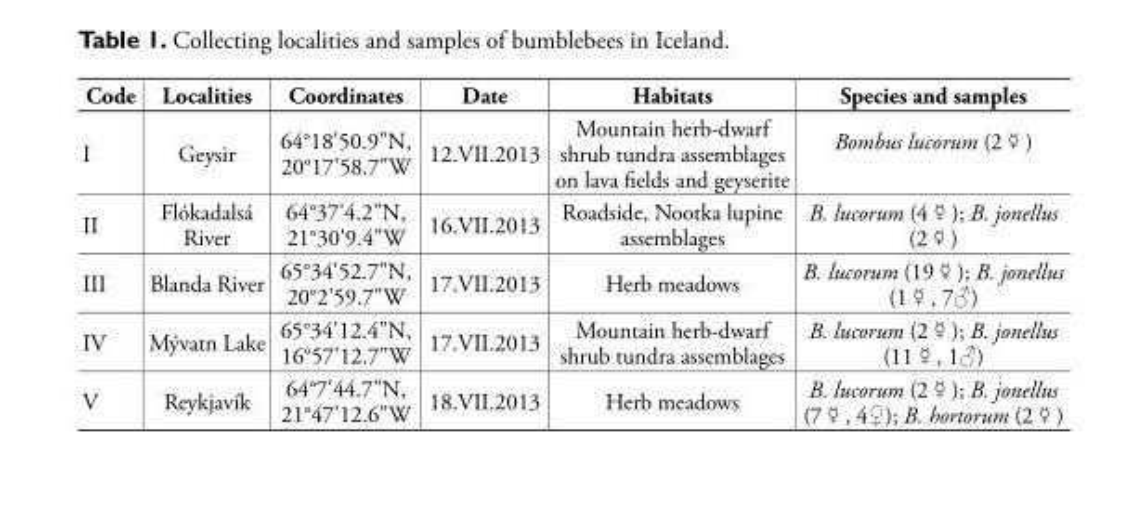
<table><thead><tr><td>Code</td><td>Localities</td><td>Coordinates</td><td>Date</td><td>Habitats</td><td>Species and samples</td></tr></thead><tbody><tr><td>I</td><td>Geysir</td><td>64°18&#x27;50.9&quot;N, 20°17&#x27;58.7&quot;W</td><td>12.VII.2013</td><td>Mountain herb-dwarf shrub tundra assemblages on lava fields and geyserite</td><td>Bombus lucorum (2☿)</td></tr><tr><td>II</td><td>Flókadalsá River</td><td>64°37&#x27;4.2&quot;N, 21°30&#x27;9.4&quot;W</td><td>16.VII.2013</td><td>Roadside, Nootka lupine assemblages</td><td>B. lucorum (4☿); B. jonellus (2☿)</td></tr><tr><td>III</td><td>Blanda River</td><td>65°34&#x27;52.7&quot;N, 20°2&#x27;59.7&quot;W</td><td>17.VII.2013</td><td>Herb meadows</td><td>B. lucorum (19☿); B. jonellus (1☿, 7♂)</td></tr><tr><td>IV</td><td>Mývatn Lake</td><td>65°34&#x27;12.4&quot;N, 16°57&#x27;12.7&quot;W</td><td>17.VII.2013</td><td>Mountain herb-dwarf shrub tundra assemblages</td><td>B. lucorum (2☿); B. jonellus (11☿, 1♂)</td></tr><tr><td>V</td><td>Reykjavík</td><td>64°7&#x27;44.7&quot;N, 21°47&#x27;12.6&quot;W</td><td>18.VII.2013</td><td>Herb meadows</td><td>B. lucorum (2☿); B. jonellus (7☿, 4♀); B. hortorum (2☿)</td></tr></tbody></table>